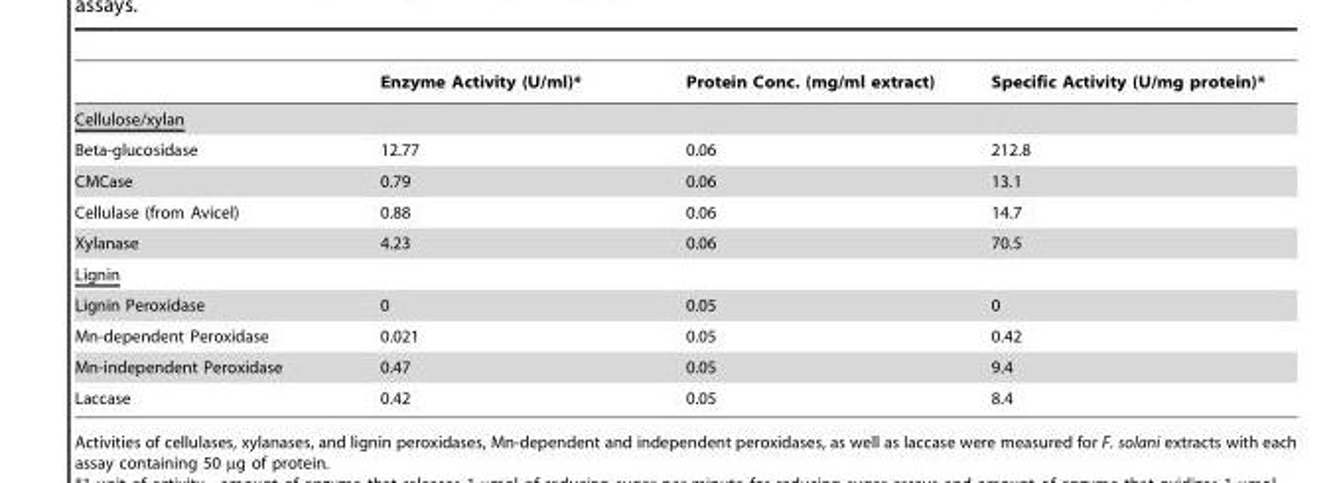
<table><thead><tr><td></td><td>Enzyme Activity (U/ml)*</td><td>Protein Conc. (mg/ml extract)</td><td>Specific Activity (U/mg protein)*</td></tr></thead><tbody><tr><td colspan="4">Cellulose/xylan</td></tr><tr><td>Beta-glucosidase</td><td>12.77</td><td>0.06</td><td>212.8</td></tr><tr><td>CMCase</td><td>0.79</td><td>0.06</td><td>13.1</td></tr><tr><td>Cellulase (from Avicel)</td><td>0.88</td><td>0.06</td><td>14.7</td></tr><tr><td>Xylanase</td><td>4.23</td><td>0.06</td><td>70.5</td></tr><tr><td colspan="4">Lignin</td></tr><tr><td>Lignin Peroxidase</td><td>0</td><td>0.05</td><td>0</td></tr><tr><td>Mn-dependent Peroxidase</td><td>0.021</td><td>0.05</td><td>0.42</td></tr><tr><td>Mn-independent Peroxidase</td><td>0.47</td><td>0.05</td><td>9.4</td></tr><tr><td>Laccase</td><td>0.42</td><td>0.05</td><td>8.4</td></tr></tbody></table>